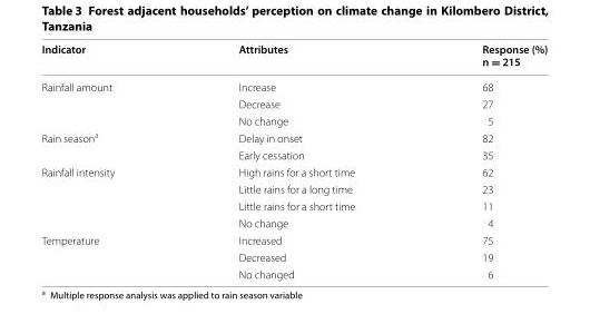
<table><thead><tr><td>Indicator</td><td>Attributes</td><td>Response (%) n = 215</td></tr></thead><tbody><tr><td rowspan="3">Rainfall amount</td><td>Increase</td><td>68</td></tr><tr><td>Decrease</td><td>27</td></tr><tr><td>No change</td><td>5</td></tr><tr><td rowspan="2">Rain season<sup>a</sup></td><td>Delay in onset</td><td>82</td></tr><tr><td>Early cessation</td><td>35</td></tr><tr><td rowspan="4">Rainfall intensity</td><td>High rains for a short time</td><td>62</td></tr><tr><td>Little rains for a long time</td><td>23</td></tr><tr><td>Little rains for a short time</td><td>11</td></tr><tr><td>No change</td><td>4</td></tr><tr><td rowspan="3">Temperature</td><td>Increased</td><td>75</td></tr><tr><td>Decreased</td><td>19</td></tr><tr><td>No changed</td><td>6</td></tr></tbody></table>